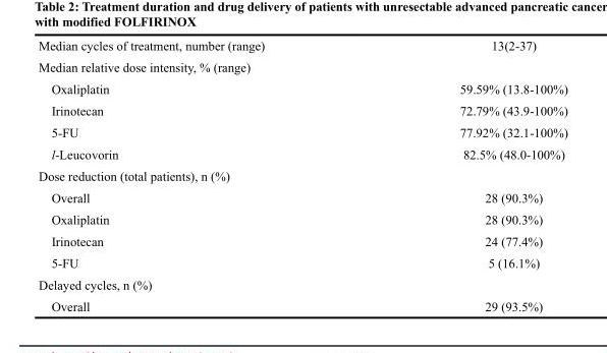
<table><tbody><tr><td>Median cycles of treatment, number (range)</td><td>13(2-37)</td></tr><tr><td colspan="2">Median relative dose intensity, % (range)</td></tr><tr><td>Oxaliplatin</td><td>59.59% (13.8-100%)</td></tr><tr><td>Irinotecan</td><td>72.79% (43.9-100%)</td></tr><tr><td>5-FU</td><td>77.92% (32.1-100%)</td></tr><tr><td>l-Leucovorin</td><td>82.5% (48.0-100%)</td></tr><tr><td colspan="2">Dose reduction (total patients), n (%)</td></tr><tr><td>Overall</td><td>28 (90.3%)</td></tr><tr><td>Oxaliplatin</td><td>28 (90.3%)</td></tr><tr><td>Irinotecan</td><td>24 (77.4%)</td></tr><tr><td>5-FU</td><td>5 (16.1%)</td></tr><tr><td colspan="2">Delayed cycles, n (%)</td></tr><tr><td>Overall</td><td>29 (93.5%)</td></tr></tbody></table>